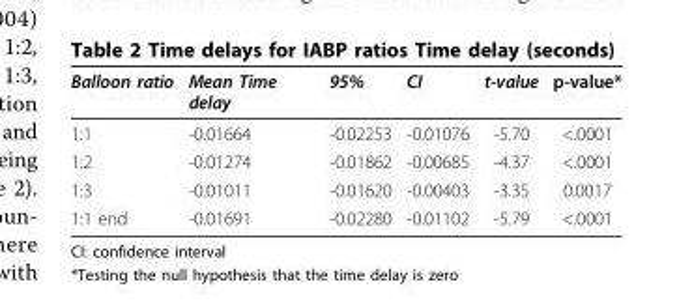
<table><thead><tr><td>Balloon ratio</td><td>Mean Time delay</td><td>95%</td><td>CI</td><td>t-value</td><td>p-value*</td></tr></thead><tbody><tr><td>1:1</td><td>-0.01664</td><td>-0.02253</td><td>-0.01076</td><td>-5.70</td><td>&lt;.0001</td></tr><tr><td>1:2</td><td>-0.01274</td><td>-0.01862</td><td>-0.00685</td><td>-4.37</td><td>&lt;.0001</td></tr><tr><td>1:3</td><td>-0.01011</td><td>-0.01620</td><td>-0.00403</td><td>-3.35</td><td>0.0017</td></tr><tr><td>1:1 end</td><td>-0.01691</td><td>-0.02280</td><td>-0.01102</td><td>-5.79</td><td>&lt;.0001</td></tr></tbody></table>